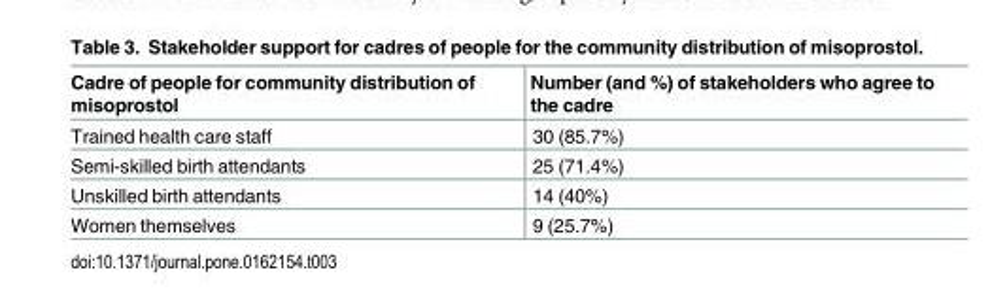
<table><thead><tr><td>Cadre of people for community distribution of misoprostol</td><td>Number (and %) of stakeholders who agree to the cadre</td></tr></thead><tbody><tr><td>Trained health care staff</td><td>30 (85.7%)</td></tr><tr><td>Semi-skilled birth attendants</td><td>25 (71.4%)</td></tr><tr><td>Unskilled birth attendants</td><td>14 (40%)</td></tr><tr><td>Women themselves</td><td>9 (25.7%)</td></tr></tbody></table>